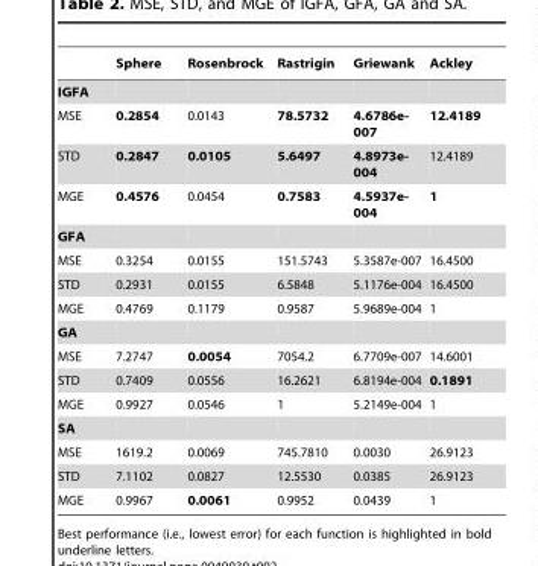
<table><thead><tr><td></td><td>Sphere</td><td>Rosenbrock</td><td>Rastrigin</td><td>Griewank</td><td>Ackley</td></tr></thead><tbody><tr><td colspan="6">IGFA</td></tr><tr><td>MSE</td><td>0.2854</td><td>0.0143</td><td>78.5732</td><td>4.6786e- 007</td><td>12.4189</td></tr><tr><td>STD</td><td>0.2847</td><td>0.0105</td><td>5.6497</td><td>4.8973e- 004</td><td>12.4189</td></tr><tr><td>MGE</td><td>0.4576</td><td>0.0454</td><td>0.7583</td><td>4.5937e- 004</td><td>1</td></tr><tr><td colspan="6">GFA</td></tr><tr><td>MSE</td><td>0.3254</td><td>0.0155</td><td>151.5743</td><td>5.3587e-007</td><td>16.4500</td></tr><tr><td>STD</td><td>0.2931</td><td>0.0155</td><td>6.5848</td><td>5.1176e-004</td><td>16.4500</td></tr><tr><td>MGE</td><td>0.4769</td><td>0.1179</td><td>0.9587</td><td>5.9689e-004</td><td>1</td></tr><tr><td colspan="6">GA</td></tr><tr><td>MSE</td><td>7.2747</td><td>0.0054</td><td>7054.2</td><td>6.7709e-007</td><td>14.6001</td></tr><tr><td>STD</td><td>0.7409</td><td>0.0556</td><td>16.2621</td><td>6.8194e-004</td><td>0.1891</td></tr><tr><td>MGE</td><td>0.9927</td><td>0.0546</td><td>1</td><td>5.2149e-004</td><td>1</td></tr><tr><td colspan="6">SA</td></tr><tr><td>MSE</td><td>1619.2</td><td>0.0069</td><td>745.7810</td><td>0.0030</td><td>26.9123</td></tr><tr><td>STD</td><td>7.1102</td><td>0.0827</td><td>12.5530</td><td>0.0385</td><td>26.9123</td></tr><tr><td>MGE</td><td>0.9967</td><td>0.0061</td><td>0.9952</td><td>0.0439</td><td>1</td></tr></tbody></table>